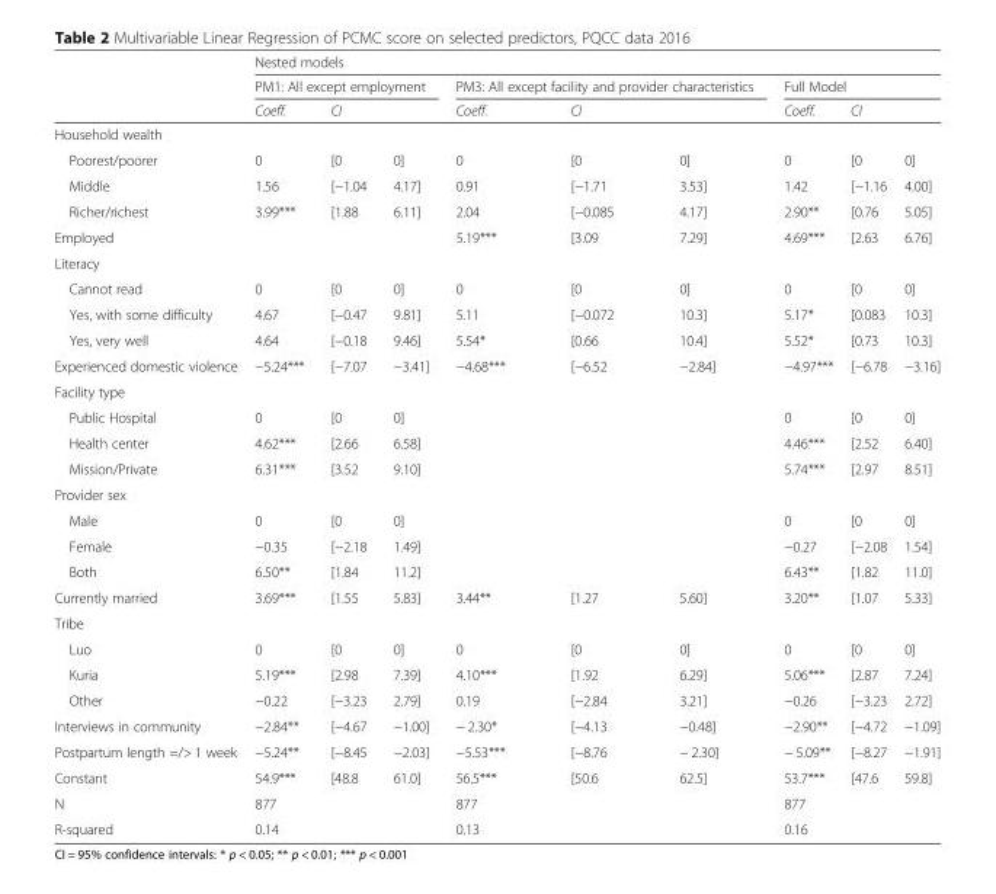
<table><thead><tr><td rowspan="3"></td><td colspan="9">Nested models</td></tr><tr><td colspan="3">PM1: All except employment</td><td colspan="3">PM3: All except facility and provider characteristics</td><td colspan="3">Full Model</td></tr><tr><td>Coeff.</td><td colspan="2">CI</td><td>Coeff.</td><td colspan="2">CI</td><td>Coeff.</td><td colspan="2">CI</td></tr><tr><td colspan="10">Household wealth</td></tr><tr><td>Poorest/poorer</td><td>0</td><td>[0</td><td>0]</td><td>0</td><td>[0</td><td>0]</td><td>0</td><td>[0</td><td>0]</td></tr></thead><tbody><tr><td>Middle</td><td>1.56</td><td>[−1.04</td><td>4.17]</td><td>0.91</td><td>[−1.71</td><td>3.53]</td><td>1.42</td><td>[−1.16</td><td>4.00]</td></tr><tr><td>Richer/richest</td><td>3.99***</td><td>[1.88</td><td>6.11]</td><td>2.04</td><td>[−0.085</td><td>4.17]</td><td>2.90**</td><td>[0.76</td><td>5.05]</td></tr><tr><td>Employed</td><td></td><td></td><td></td><td>5.19***</td><td>[3.09</td><td>7.29]</td><td>4.69***</td><td>[2.63</td><td>6.76]</td></tr><tr><td colspan="10">Literacy</td></tr><tr><td>Cannot read</td><td>0</td><td>[0</td><td>0]</td><td>0</td><td>[0</td><td>0]</td><td>0</td><td>[0</td><td>0]</td></tr><tr><td>Yes, with some difficulty</td><td>4.67</td><td>[−0.47</td><td>9.81]</td><td>5.11</td><td>[−0.072</td><td>10.3]</td><td>5.17*</td><td>[0.083</td><td>10.3]</td></tr><tr><td>Yes, very well</td><td>4.64</td><td>[−0.18</td><td>9.46]</td><td>5.54*</td><td>[0.66</td><td>10.4]</td><td>5.52*</td><td>[0.73</td><td>10.3]</td></tr><tr><td>Experienced domestic violence</td><td>−5.24***</td><td>[−7.07</td><td>−3.41]</td><td>−4.68***</td><td>[−6.52</td><td>−2.84]</td><td>−4.97***</td><td>[−6.78</td><td>−3.16]</td></tr><tr><td colspan="10">Facility type</td></tr><tr><td>Public Hospital</td><td>0</td><td>[0</td><td>0]</td><td></td><td></td><td></td><td>0</td><td>[0</td><td>0]</td></tr><tr><td>Health center</td><td>4.62***</td><td>[2.66</td><td>6.58]</td><td></td><td></td><td></td><td>4.46***</td><td>[2.52</td><td>6.40]</td></tr><tr><td>Mission/Private</td><td>6.31***</td><td>[3.52</td><td>9.10]</td><td></td><td></td><td></td><td>5.74***</td><td>[2.97</td><td>8.51]</td></tr><tr><td colspan="10">Provider sex</td></tr><tr><td>Male</td><td>0</td><td>[0</td><td>0]</td><td></td><td></td><td></td><td>0</td><td>[0</td><td>0]</td></tr><tr><td>Female</td><td>−0.35</td><td>[−2.18</td><td>1.49]</td><td></td><td></td><td></td><td>−0.27</td><td>[−2.08</td><td>1.54]</td></tr><tr><td>Both</td><td>6.50**</td><td>[1.84</td><td>11.2]</td><td></td><td></td><td></td><td>6.43**</td><td>[1.82</td><td>11.0]</td></tr><tr><td>Currently married</td><td>3.69***</td><td>[1.55</td><td>5.83]</td><td>3.44**</td><td>[1.27</td><td>5.60]</td><td>3.20**</td><td>[1.07</td><td>5.33]</td></tr><tr><td colspan="10">Tribe</td></tr><tr><td>Luo</td><td>0</td><td>[0</td><td>0]</td><td>0</td><td>[0</td><td>0]</td><td>0</td><td>[0</td><td>0]</td></tr><tr><td>Kuria</td><td>5.19***</td><td>[2.98</td><td>7.39]</td><td>4.10***</td><td>[1.92</td><td>6.29]</td><td>5.06***</td><td>[2.87</td><td>7.24]</td></tr><tr><td>Other</td><td>−0.22</td><td>[−3.23</td><td>2.79]</td><td>0.19</td><td>[−2.84</td><td>3.21]</td><td>−0.26</td><td>[−3.23</td><td>2.72]</td></tr><tr><td>Interviews in community</td><td>−2.84**</td><td>[−4.67</td><td>−1.00]</td><td>− 2.30*</td><td>[−4.13</td><td>−0.48]</td><td>−2.90**</td><td>[−4.72</td><td>−1.09]</td></tr><tr><td>Postpartum length =/&gt; 1 week</td><td>−5.24**</td><td>[−8.45</td><td>−2.03]</td><td>−5.53***</td><td>[−8.76</td><td>− 2.30]</td><td>− 5.09**</td><td>[−8.27</td><td>−1.91]</td></tr><tr><td>Constant</td><td>54.9***</td><td>[48.8</td><td>61.0]</td><td>56.5***</td><td>[50.6</td><td>62.5]</td><td>53.7***</td><td>[47.6</td><td>59.8]</td></tr><tr><td>N</td><td>877</td><td></td><td></td><td>877</td><td></td><td></td><td>877</td><td></td><td></td></tr><tr><td>R-squared</td><td>0.14</td><td></td><td></td><td>0.13</td><td></td><td></td><td>0.16</td><td></td><td></td></tr></tbody></table>